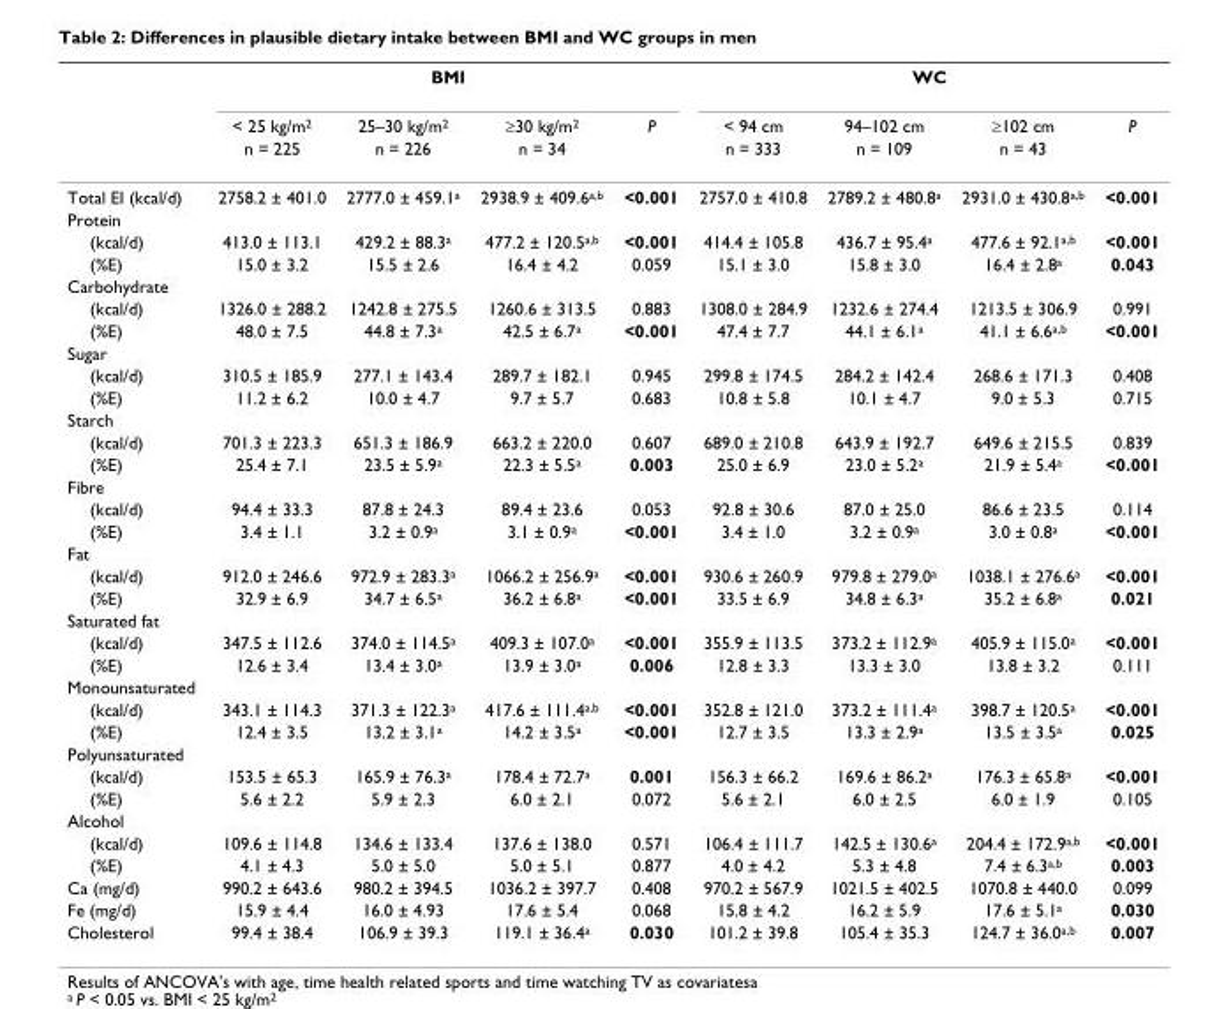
<table><thead><tr><td rowspan="3"></td><td colspan="4">BMI</td><td colspan="4">WC</td></tr><tr><td rowspan="2">&lt; 25 kg/m<sup>2</sup> n = 225</td><td rowspan="2">25–30 kg/m<sup>2</sup> n = 226</td><td rowspan="2">≥30 kg/m<sup>2</sup> n = 34</td><td rowspan="2">P</td><td rowspan="2">&lt; 94 cm n = 333</td><td rowspan="2">94–102 cm n = 109</td><td rowspan="2">≥102 cm n = 43</td><td rowspan="2">P</td></tr><tr></tr></thead><tbody><tr><td>Total EI (kcal/d)</td><td>2758.2 ± 401.0</td><td>2777.0 ± 459.1<sup>a</sup></td><td>2938.9 ± 409.6<sup>a,b</sup></td><td>&lt;0.001</td><td>2757.0 ± 410.8</td><td>2789.2 ± 480.8<sup>a</sup></td><td>2931.0 ± 430.8<sup>a,b</sup></td><td>&lt;0.001</td></tr><tr><td colspan="9">Protein</td></tr><tr><td>(kcal/d)</td><td>413.0 ± 113.1</td><td>429.2 ± 88.3<sup>a</sup></td><td>477.2 ± 120.5<sup>a,b</sup></td><td>&lt;0.001</td><td>414.4 ± 105.8</td><td>436.7 ± 95.4<sup>a</sup></td><td>477.6 ± 92.1<sup>a,b</sup></td><td>&lt;0.001</td></tr><tr><td>(%E)</td><td>15.0 ± 3.2</td><td>15.5 ± 2.6</td><td>16.4 ± 4.2</td><td>0.059</td><td>15.1 ± 3.0</td><td>15.8 ± 3.0</td><td>16.4 ± 2.8<sup>a</sup></td><td>0.043</td></tr><tr><td colspan="9">Carbohydrate</td></tr><tr><td>(kcal/d)</td><td>1326.0 ± 288.2</td><td>1242.8 ± 275.5</td><td>1260.6 ± 313.5</td><td>0.883</td><td>1308.0 ± 284.9</td><td>1232.6 ± 274.4</td><td>1213.5 ± 306.9</td><td>0.991</td></tr><tr><td>(%E)</td><td>48.0 ± 7.5</td><td>44.8 ± 7.3<sup>a</sup></td><td>42.5 ± 6.7<sup>a</sup></td><td>&lt;0.001</td><td>47.4 ± 7.7</td><td>44.1 ± 6.1<sup>a</sup></td><td>41.1 ± 6.6<sup>a,b</sup></td><td>&lt;0.001</td></tr><tr><td colspan="9">Sugar</td></tr><tr><td>(kcal/d)</td><td>310.5 ± 185.9</td><td>277.1 ± 143.4</td><td>289.7 ± 182.1</td><td>0.945</td><td>299.8 ± 174.5</td><td>284.2 ± 142.4</td><td>268.6 ± 171.3</td><td>0.408</td></tr><tr><td>(%E)</td><td>11.2 ± 6.2</td><td>10.0 ± 4.7</td><td>9.7 ± 5.7</td><td>0.683</td><td>10.8 ± 5.8</td><td>10.1 ± 4.7</td><td>9.0 ± 5.3</td><td>0.715</td></tr><tr><td colspan="9">Starch</td></tr><tr><td>(kcal/d)</td><td>701.3 ± 223.3</td><td>651.3 ± 186.9</td><td>663.2 ± 220.0</td><td>0.607</td><td>689.0 ± 210.8</td><td>643.9 ± 192.7</td><td>649.6 ± 215.5</td><td>0.839</td></tr><tr><td>(%E)</td><td>25.4 ± 7.1</td><td>23.5 ± 5.9<sup>a</sup></td><td>22.3 ± 5.5<sup>a</sup></td><td>0.003</td><td>25.0 ± 6.9</td><td>23.0 ± 5.2<sup>a</sup></td><td>21.9 ± 5.4<sup>a</sup></td><td>&lt;0.001</td></tr><tr><td colspan="9">Fibre</td></tr><tr><td>(kcal/d)</td><td>94.4 ± 33.3</td><td>87.8 ± 24.3</td><td>89.4 ± 23.6</td><td>0.053</td><td>92.8 ± 30.6</td><td>87.0 ± 25.0</td><td>86.6 ± 23.5</td><td>0.114</td></tr><tr><td>(%E)</td><td>3.4 ± 1.1</td><td>3.2 ± 0.9<sup>a</sup></td><td>3.1 ± 0.9<sup>a</sup></td><td>&lt;0.001</td><td>3.4 ± 1.0</td><td>3.2 ± 0.9<sup>a</sup></td><td>3.0 ± 0.8<sup>a</sup></td><td>&lt;0.001</td></tr><tr><td colspan="9">Fat</td></tr><tr><td>(kcal/d)</td><td>912.0 ± 246.6</td><td>972.9 ± 283.3<sup>a</sup></td><td>1066.2 ± 256.9<sup>a</sup></td><td>&lt;0.001</td><td>930.6 ± 260.9</td><td>979.8 ± 279.0<sup>a</sup></td><td>1038.1 ± 276.6<sup>a</sup></td><td>&lt;0.001</td></tr><tr><td>(%E)</td><td>32.9 ± 6.9</td><td>34.7 ± 6.5<sup>a</sup></td><td>36.2 ± 6.8<sup>a</sup></td><td>&lt;0.001</td><td>33.5 ± 6.9</td><td>34.8 ± 6.3<sup>a</sup></td><td>35.2 ± 6.8<sup>a</sup></td><td>0.021</td></tr><tr><td colspan="9">Saturated fat</td></tr><tr><td>(kcal/d)</td><td>347.5 ± 112.6</td><td>374.0 ± 114.5<sup>a</sup></td><td>409.3 ± 107.0<sup>a</sup></td><td>&lt;0.001</td><td>355.9 ± 113.5</td><td>373.2 ± 112.9<sup>a</sup></td><td>405.9 ± 115.0<sup>a</sup></td><td>&lt;0.001</td></tr><tr><td>(%E)</td><td>12.6 ± 3.4</td><td>13.4 ± 3.0<sup>a</sup></td><td>13.9 ± 3.0<sup>a</sup></td><td>0.006</td><td>12.8 ± 3.3</td><td>13.3 ± 3.0</td><td>13.8 ± 3.2</td><td>0.111</td></tr><tr><td colspan="9">Monounsaturated</td></tr><tr><td>(kcal/d)</td><td>343.1 ± 114.3</td><td>371.3 ± 122.3<sup>a</sup></td><td>417.6 ± 111.4<sup>a,b</sup></td><td>&lt;0.001</td><td>352.8 ± 121.0</td><td>373.2 ± 111.4<sup>a</sup></td><td>398.7 ± 120.5<sup>a</sup></td><td>&lt;0.001</td></tr><tr><td>(%E)</td><td>12.4 ± 3.5</td><td>13.2 ± 3.1<sup>a</sup></td><td>14.2 ± 3.5<sup>a</sup></td><td>&lt;0.001</td><td>12.7 ± 3.5</td><td>13.3 ± 2.9<sup>a</sup></td><td>13.5 ± 3.5<sup>a</sup></td><td>0.025</td></tr><tr><td colspan="9">Polyunsaturated</td></tr><tr><td>(kcal/d)</td><td>153.5 ± 65.3</td><td>165.9 ± 76.3<sup>a</sup></td><td>178.4 ± 72.7<sup>a</sup></td><td>0.001</td><td>156.3 ± 66.2</td><td>169.6 ± 86.2<sup>a</sup></td><td>176.3 ± 65.8<sup>a</sup></td><td>&lt;0.001</td></tr><tr><td>(%E)</td><td>5.6 ± 2.2</td><td>5.9 ± 2.3</td><td>6.0 ± 2.1</td><td>0.072</td><td>5.6 ± 2.1</td><td>6.0 ± 2.5</td><td>6.0 ± 1.9</td><td>0.105</td></tr><tr><td colspan="9">Alcohol</td></tr><tr><td>(kcal/d)</td><td>109.6 ± 114.8</td><td>134.6 ± 133.4</td><td>137.6 ± 138.0</td><td>0.571</td><td>106.4 ± 111.7</td><td>142.5 ± 130.6<sup>a</sup></td><td>204.4 ± 172.9<sup>a,b</sup></td><td>&lt;0.001</td></tr><tr><td>(%E)</td><td>4.1 ± 4.3</td><td>5.0 ± 5.0</td><td>5.0 ± 5.1</td><td>0.877</td><td>4.0 ± 4.2</td><td>5.3 ± 4.8</td><td>7.4 ± 6.3<sup>a,b</sup></td><td>0.003</td></tr><tr><td>Ca (mg/d)</td><td>990.2 ± 643.6</td><td>980.2 ± 394.5</td><td>1036.2 ± 397.7</td><td>0.408</td><td>970.2 ± 567.9</td><td>1021.5 ± 402.5</td><td>1070.8 ± 440.0</td><td>0.099</td></tr><tr><td>Fe (mg/d)</td><td>15.9 ± 4.4</td><td>16.0 ± 4.93</td><td>17.6 ± 5.4</td><td>0.068</td><td>15.8 ± 4.2</td><td>16.2 ± 5.9</td><td>17.6 ± 5.1<sup>a</sup></td><td>0.030</td></tr><tr><td>Cholesterol</td><td>99.4 ± 38.4</td><td>106.9 ± 39.3</td><td>119.1 ± 36.4<sup>a</sup></td><td>0.030</td><td>101.2 ± 39.8</td><td>105.4 ± 35.3</td><td>124.7 ± 36.0<sup>a,b</sup></td><td>0.007</td></tr></tbody></table>